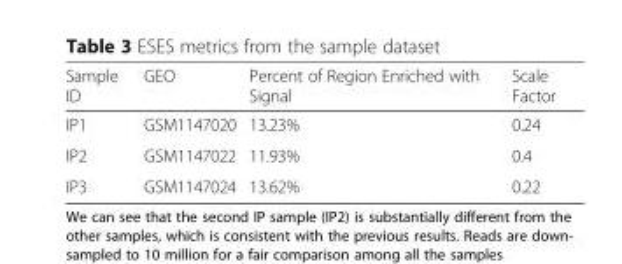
<table><thead><tr><td>Sample ID</td><td>GEO</td><td>Percent of Region Enriched with Signal</td><td>Scale Factor</td></tr></thead><tbody><tr><td>IP1</td><td>GSM1147020</td><td>13.23%</td><td>0.24</td></tr><tr><td>IP2</td><td>GSM1147022</td><td>11.93%</td><td>0.4</td></tr><tr><td>IP3</td><td>GSM1147024</td><td>13.62%</td><td>0.22</td></tr></tbody></table>